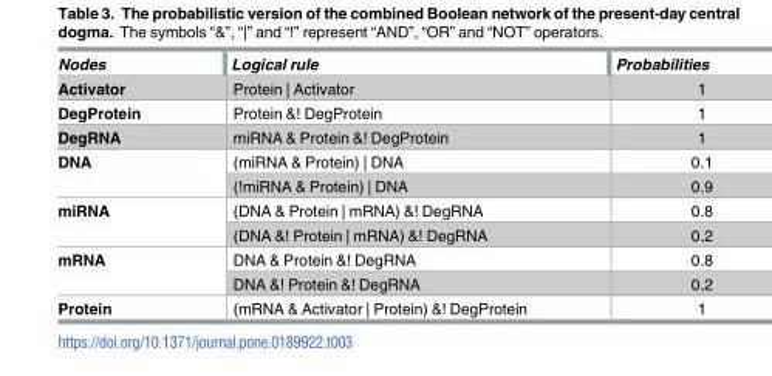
<table><thead><tr><td>Nodes</td><td>Logical rule</td><td>Probabilities</td></tr></thead><tbody><tr><td>Activator</td><td>Protein | Activator</td><td>1</td></tr><tr><td>DegProtein</td><td>Protein &amp;! DegProtein</td><td>1</td></tr><tr><td>DegRNA</td><td>miRNA &amp; Protein &amp;! DegProtein</td><td>1</td></tr><tr><td rowspan="2">DNA</td><td>(miRNA &amp; Protein) | DNA</td><td>0.1</td></tr><tr><td>(!miRNA &amp; Protein) | DNA</td><td>0.9</td></tr><tr><td rowspan="2">miRNA</td><td>(DNA &amp; Protein | mRNA) &amp;! DegRNA</td><td>0.8</td></tr><tr><td>(DNA &amp;! Protein | mRNA) &amp;! DegRNA</td><td>0.2</td></tr><tr><td rowspan="2">mRNA</td><td>DNA &amp; Protein &amp;! DegRNA</td><td>0.8</td></tr><tr><td>DNA &amp;! Protein &amp;! DegRNA</td><td>0.2</td></tr><tr><td>Protein</td><td>(mRNA &amp; Activator | Protein) &amp;! DegProtein</td><td>1</td></tr></tbody></table>